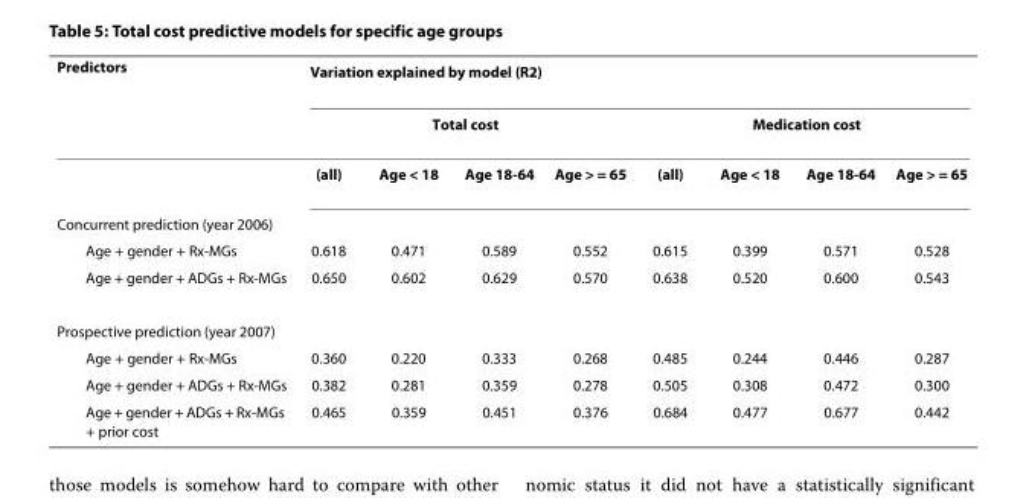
<table><thead><tr><td rowspan="3">Predictors</td><td colspan="8">Variation explained by model (R<sup>2</sup>)</td></tr><tr><td colspan="4">Total cost</td><td colspan="4">Medication cost</td></tr><tr><td>(all)</td><td>Age &lt; 18</td><td>Age 18-64</td><td>Age &gt; = 65</td><td>(all)</td><td>Age &lt; 18</td><td>Age 18-64</td><td>Age &gt; = 65</td></tr></thead><tbody><tr><td colspan="9">Concurrent prediction (year 2006)</td></tr><tr><td>Age + gender + Rx-MGs</td><td>0.618</td><td>0.471</td><td>0.589</td><td>0.552</td><td>0.615</td><td>0.399</td><td>0.571</td><td>0.528</td></tr><tr><td>Age + gender + ADGs + Rx-MGs</td><td>0.650</td><td>0.602</td><td>0.629</td><td>0.570</td><td>0.638</td><td>0.520</td><td>0.600</td><td>0.543</td></tr><tr><td colspan="9">Prospective prediction (year 2007)</td></tr><tr><td>Age + gender + Rx-MGs</td><td>0.360</td><td>0.220</td><td>0.333</td><td>0.268</td><td>0.485</td><td>0.244</td><td>0.446</td><td>0.287</td></tr><tr><td>Age + gender + ADGs + Rx-MGs</td><td>0.382</td><td>0.281</td><td>0.359</td><td>0.278</td><td>0.505</td><td>0.308</td><td>0.472</td><td>0.300</td></tr><tr><td>Age + gender + ADGs + Rx-MGs + prior cost</td><td>0.465</td><td>0.359</td><td>0.451</td><td>0.376</td><td>0.684</td><td>0.477</td><td>0.677</td><td>0.442</td></tr></tbody></table>